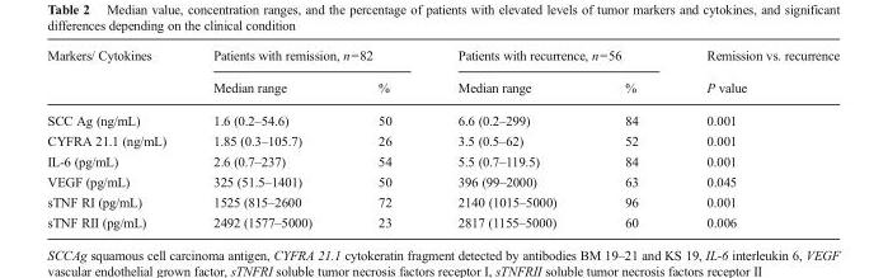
<table><thead><tr><td rowspan="2">Markers/ Cytokines</td><td colspan="2">Patients with remission, n=82</td><td colspan="2">Patients with recurrence, n=56</td><td rowspan="2">Remission vs. recurrence P value</td></tr><tr><td>Median range</td><td>%</td><td>Median range</td><td>%</td></tr></thead><tbody><tr><td>SCC Ag (ng/mL)</td><td>1.6 (0.2–54.6)</td><td>50</td><td>6.6 (0.2–299)</td><td>84</td><td>0.001</td></tr><tr><td>CYFRA 21.1 (ng/mL)</td><td>1.85 (0.3–105.7)</td><td>26</td><td>3.5 (0.5–62)</td><td>52</td><td>0.001</td></tr><tr><td>IL-6 (pg/mL)</td><td>2.6 (0.7–237)</td><td>54</td><td>5.5 (0.7–119.5)</td><td>84</td><td>0.001</td></tr><tr><td>VEGF (pg/mL)</td><td>325 (51.5–1401)</td><td>50</td><td>396 (99–2000)</td><td>63</td><td>0.045</td></tr><tr><td>sTNF RI (pg/mL)</td><td>1525 (815–2600</td><td>72</td><td>2140 (1015–5000)</td><td>96</td><td>0.001</td></tr><tr><td>sTNF RII (pg/mL)</td><td>2492 (1577–5000)</td><td>23</td><td>2817 (1155–5000)</td><td>60</td><td>0.006</td></tr></tbody></table>